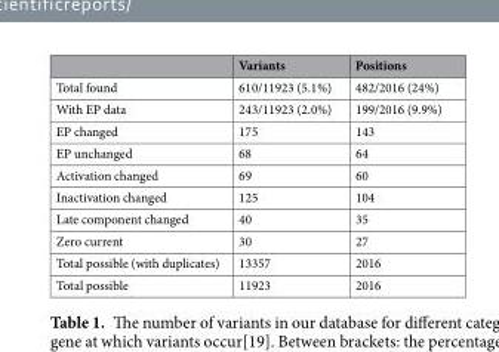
<table><thead><tr><td></td><td>Variants</td><td>Positions</td></tr></thead><tbody><tr><td>Total found</td><td>610/11923 (5.1%)</td><td>482/2016 (24%)</td></tr><tr><td>With EP data</td><td>243/11923 (2.0%)</td><td>199/2016 (9.9%)</td></tr><tr><td>EP changed</td><td>175</td><td>143</td></tr><tr><td>EP unchanged</td><td>68</td><td>64</td></tr><tr><td>Activation changed</td><td>69</td><td>60</td></tr><tr><td>Inactivation changed</td><td>125</td><td>104</td></tr><tr><td>Late component changed</td><td>40</td><td>35</td></tr><tr><td>Zero current</td><td>30</td><td>27</td></tr><tr><td>Total possible (with duplicates)</td><td>13357</td><td>2016</td></tr><tr><td>Total possible</td><td>11923</td><td>2016</td></tr></tbody></table>